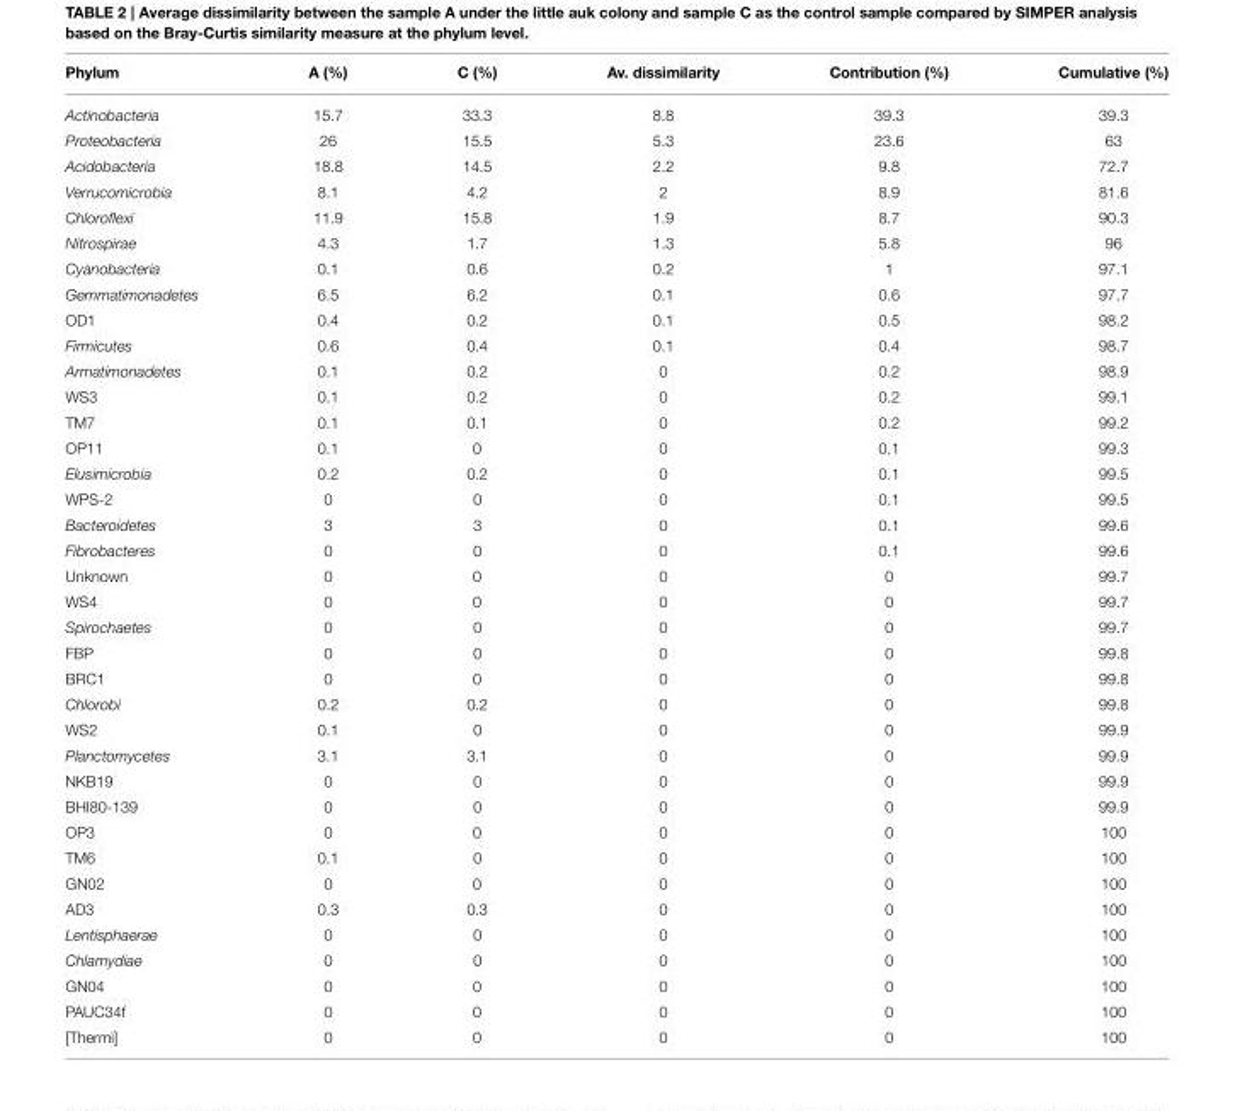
<table><thead><tr><td>Phylum</td><td>A (%)</td><td>C (%)</td><td>Av. dissimilarity</td><td>Contribution (%)</td><td>Cumulative (%)</td></tr></thead><tbody><tr><td>Actinobacteria</td><td>15.7</td><td>33.3</td><td>8.8</td><td>39.3</td><td>39.3</td></tr><tr><td>Proteobacteria</td><td>26</td><td>15.5</td><td>5.3</td><td>23.6</td><td>63</td></tr><tr><td>Acidobacteria</td><td>18.8</td><td>14.5</td><td>2.2</td><td>9.8</td><td>72.7</td></tr><tr><td>Verrucomicrobia</td><td>8.1</td><td>4.2</td><td>2</td><td>8.9</td><td>81.6</td></tr><tr><td>Chloroflexi</td><td>11.9</td><td>15.8</td><td>1.9</td><td>8.7</td><td>90.3</td></tr><tr><td>Nitrospirae</td><td>4.3</td><td>1.7</td><td>1.3</td><td>5.8</td><td>96</td></tr><tr><td>Cyanobacteria</td><td>0.1</td><td>0.6</td><td>0.2</td><td>1</td><td>97.1</td></tr><tr><td>Gemmatimonadetes</td><td>6.5</td><td>6.2</td><td>0.1</td><td>0.6</td><td>97.7</td></tr><tr><td>OD1</td><td>0.4</td><td>0.2</td><td>0.1</td><td>0.5</td><td>98.2</td></tr><tr><td>Firmicutes</td><td>0.6</td><td>0.4</td><td>0.1</td><td>0.4</td><td>98.7</td></tr><tr><td>Armatimonadetes</td><td>0.1</td><td>0.2</td><td>0</td><td>0.2</td><td>98.9</td></tr><tr><td>WS3</td><td>0.1</td><td>0.2</td><td>0</td><td>0.2</td><td>99.1</td></tr><tr><td>TM7</td><td>0.1</td><td>0.1</td><td>0</td><td>0.2</td><td>99.2</td></tr><tr><td>OP11</td><td>0.1</td><td>0</td><td>0</td><td>0.1</td><td>99.3</td></tr><tr><td>Elusimicrobia</td><td>0.2</td><td>0.2</td><td>0</td><td>0.1</td><td>99.5</td></tr><tr><td>WPS-2</td><td>0</td><td>0</td><td>0</td><td>0.1</td><td>99.5</td></tr><tr><td>Bacteroidetes</td><td>3</td><td>3</td><td>0</td><td>0.1</td><td>99.6</td></tr><tr><td>Fibrobacteres</td><td>0</td><td>0</td><td>0</td><td>0.1</td><td>99.6</td></tr><tr><td>Unknown</td><td>0</td><td>0</td><td>0</td><td>0</td><td>99.7</td></tr><tr><td>WS4</td><td>0</td><td>0</td><td>0</td><td>0</td><td>99.7</td></tr><tr><td>Spirochaetes</td><td>0</td><td>0</td><td>0</td><td>0</td><td>99.7</td></tr><tr><td>FBP</td><td>0</td><td>0</td><td>0</td><td>0</td><td>99.8</td></tr><tr><td>BRC1</td><td>0</td><td>0</td><td>0</td><td>0</td><td>99.8</td></tr><tr><td>Chlorobi</td><td>0.2</td><td>0.2</td><td>0</td><td>0</td><td>99.8</td></tr><tr><td>WS2</td><td>0.1</td><td>0</td><td>0</td><td>0</td><td>99.9</td></tr><tr><td>Planctomycetes</td><td>3.1</td><td>3.1</td><td>0</td><td>0</td><td>99.9</td></tr><tr><td>NKB19</td><td>0</td><td>0</td><td>0</td><td>0</td><td>99.9</td></tr><tr><td>BHI80-139</td><td>0</td><td>0</td><td>0</td><td>0</td><td>99.9</td></tr><tr><td>OP3</td><td>0</td><td>0</td><td>0</td><td>0</td><td>100</td></tr><tr><td>TM6</td><td>0.1</td><td>0</td><td>0</td><td>0</td><td>100</td></tr><tr><td>GN02</td><td>0</td><td>0</td><td>0</td><td>0</td><td>100</td></tr><tr><td>AD3</td><td>0.3</td><td>0.3</td><td>0</td><td>0</td><td>100</td></tr><tr><td>Lentisphaerae</td><td>0</td><td>0</td><td>0</td><td>0</td><td>100</td></tr><tr><td>Chlamydiae</td><td>0</td><td>0</td><td>0</td><td>0</td><td>100</td></tr><tr><td>GN04</td><td>0</td><td>0</td><td>0</td><td>0</td><td>100</td></tr><tr><td>PAUC34f</td><td>0</td><td>0</td><td>0</td><td>0</td><td>100</td></tr><tr><td>[Thermi]</td><td>0</td><td>0</td><td>0</td><td>0</td><td>100</td></tr></tbody></table>